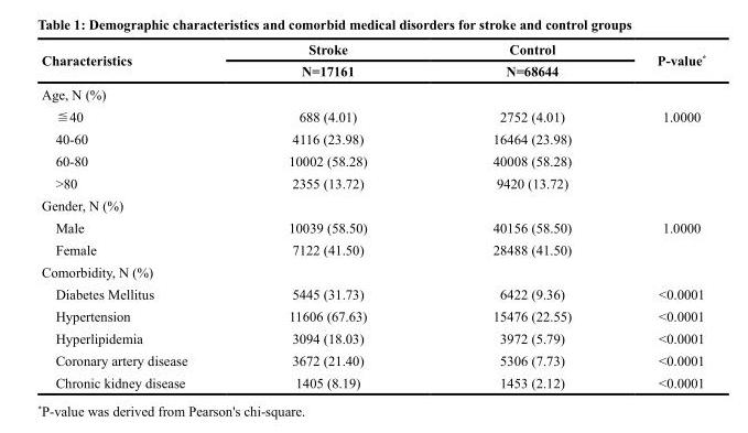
<table><thead><tr><td rowspan="2">Characteristics</td><td rowspan="2">Stroke N=17161</td><td rowspan="2">Control N=68644</td><td rowspan="2">P-value*</td></tr><tr></tr></thead><tbody><tr><td colspan="4">Age, N (%)</td></tr><tr><td>≦40</td><td>688 (4.01)</td><td>2752 (4.01)</td><td>1.0000</td></tr><tr><td>40-60</td><td>4116 (23.98)</td><td>16464 (23.98)</td><td></td></tr><tr><td>60-80</td><td>10002 (58.28)</td><td>40008 (58.28)</td><td></td></tr><tr><td>&gt;80</td><td>2355 (13.72)</td><td>9420 (13.72)</td><td></td></tr><tr><td colspan="4">Gender, N (%)</td></tr><tr><td>Male</td><td>10039 (58.50)</td><td>40156 (58.50)</td><td>1.0000</td></tr><tr><td>Female</td><td>7122 (41.50)</td><td>28488 (41.50)</td><td></td></tr><tr><td colspan="4">Comorbidity, N (%)</td></tr><tr><td>Diabetes Mellitus</td><td>5445 (31.73)</td><td>6422 (9.36)</td><td>&lt;0.0001</td></tr><tr><td>Hypertension</td><td>11606 (67.63)</td><td>15476 (22.55)</td><td>&lt;0.0001</td></tr><tr><td>Hyperlipidemia</td><td>3094 (18.03)</td><td>3972 (5.79)</td><td>&lt;0.0001</td></tr><tr><td>Coronary artery disease</td><td>3672 (21.40)</td><td>5306 (7.73)</td><td>&lt;0.0001</td></tr><tr><td>Chronic kidney disease</td><td>1405 (8.19)</td><td>1453 (2.12)</td><td>&lt;0.0001</td></tr></tbody></table>